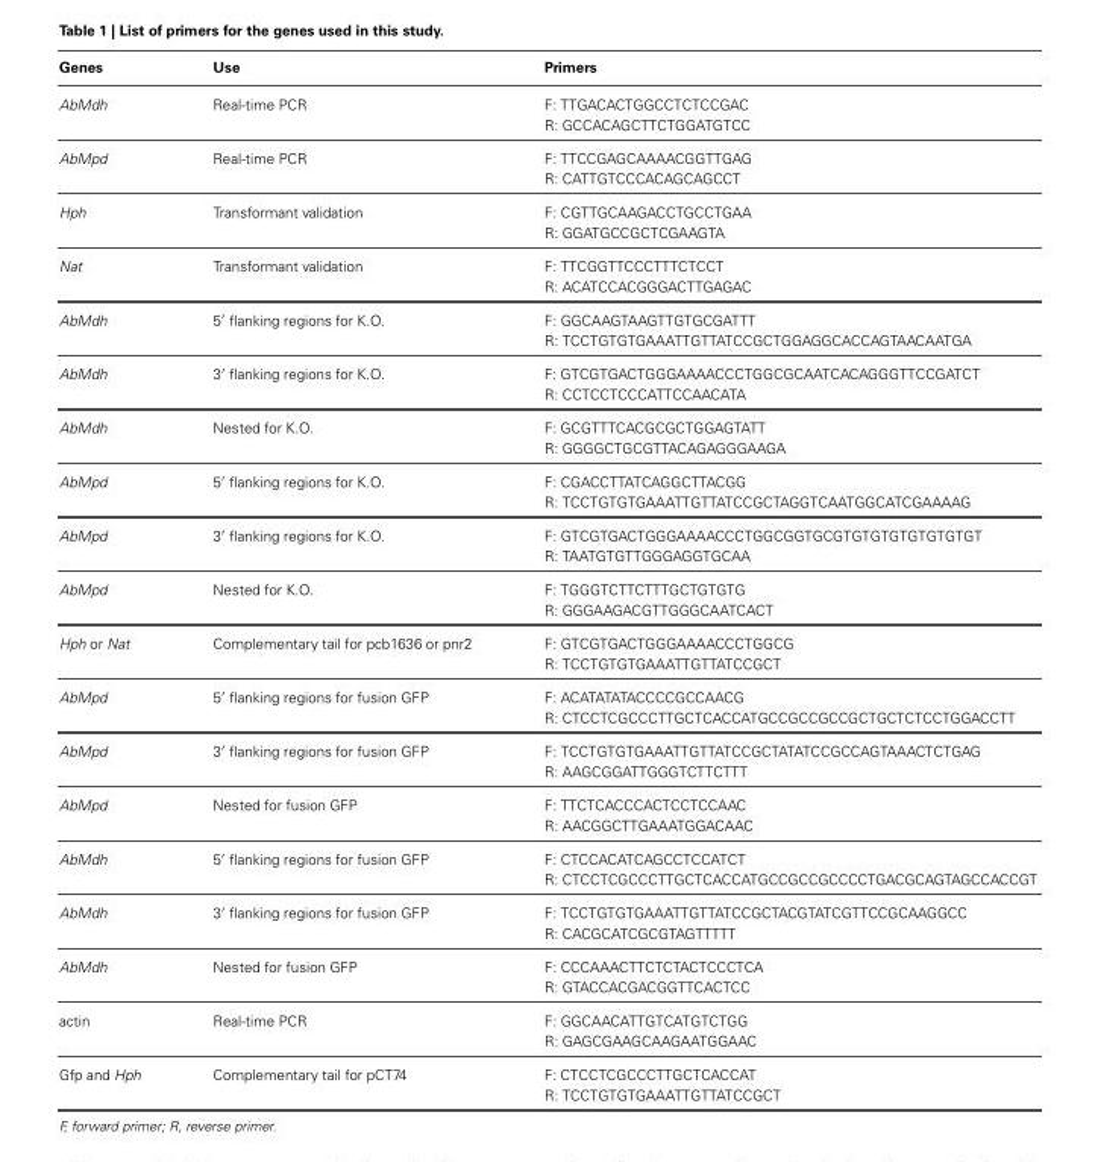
<table><thead><tr><td>Genes</td><td>Use</td><td>Primers</td></tr></thead><tbody><tr><td rowspan="2">AbMdh</td><td>Real-time PCR</td><td>F: TTGACACTGGCCTCTCCGAC</td></tr><tr><td></td><td>R: GCCACAGCTTCTGGATGTCC</td></tr><tr><td rowspan="2">AbMpd</td><td>Real-time PCR</td><td>F: TTCCGAGCAAAACGGTTGAG</td></tr><tr><td></td><td>R: CATTGTCCCACAGCAGCCT</td></tr><tr><td rowspan="2">Hph</td><td>Transformant validation</td><td>F: CGTTGCAAGACCTGCCTGAA</td></tr><tr><td></td><td>R: GGATGCCGCTCGAAGTA</td></tr><tr><td rowspan="2">Nat</td><td>Transformant validation</td><td>F: TTCGGTTCCCTTTCTCCT</td></tr><tr><td></td><td>R: ACATCCACGGGACTTGAGAC</td></tr><tr><td rowspan="2">AbMdh</td><td>5′ flanking regions for K.O.</td><td>F: GGCAAGTAAGTTGTGCGATTT</td></tr><tr><td></td><td>R: TCCTGTGTGAAATTGTTATCCGCTGGAGGCACCAGTAACAATGA</td></tr><tr><td rowspan="2">AbMdh</td><td>3′ flanking regions for K.O.</td><td>F: GTCGTGACTGGGAAAACCCTGGCGCAATCACAGGGTTCCGATCT</td></tr><tr><td></td><td>R: CCTCCTCCCATTCCAACATA</td></tr><tr><td rowspan="2">AbMdh</td><td>Nested for K.O.</td><td>F: GCGTTTCACGCGCTGGAGTATT</td></tr><tr><td></td><td>R: GGGGCTGCGTTACAGAGGGAAGA</td></tr><tr><td rowspan="2">AbMpd</td><td>5′ flanking regions for K.O.</td><td>F: CGACCTTATCAGGCTTACGG</td></tr><tr><td></td><td>R: TCCTGTGTGAAATTGTTATCCGCTAGGTCAATGGCATCGAAAAG</td></tr><tr><td rowspan="2">AbMpd</td><td>3′ flanking regions for K.O.</td><td>F: GTCGTGACTGGGAAAACCCTGGCGGTGCGTGTGTGTGTGTGTGT</td></tr><tr><td></td><td>R: TAATGTGTTGGGAGGTGCAA</td></tr><tr><td rowspan="2">AbMpd</td><td>Nested for K.O.</td><td>F: TGGGTCTTCTTTGCTGTGTG</td></tr><tr><td></td><td>R: GGGAAGACGTTGGGCAATCACT</td></tr><tr><td rowspan="2">Hph or Nat</td><td>Complementary tail for pcb1636 or pnr2</td><td>F: GTCGTGACTGGGAAAACCCTGGCG</td></tr><tr><td></td><td>R: TCCTGTGTGAAATTGTTATCCGCT</td></tr><tr><td rowspan="2">AbMpd</td><td>5′ flanking regions for fusion GFP</td><td>F: ACATATATACCCCGCCAACG</td></tr><tr><td></td><td>R: CTCCTCGCCCTTGCTCACCATGCCGCCGCCGCTGCTCTCCTGGACCTT</td></tr><tr><td rowspan="2">AbMpd</td><td>3′ flanking regions for fusion GFP</td><td>F: TCCTGTGTGAAATTGTTATCCGCTATATCCGCCAGTAAACTCTGAG</td></tr><tr><td></td><td>R: AAGCGGATTGGGTCTTCTTT</td></tr><tr><td rowspan="2">AbMpd</td><td>Nested for fusion GFP</td><td>F: TTCTCACCCACTCCTCCAAC</td></tr><tr><td></td><td>R: AACGGCTTGAAATGGACAAC</td></tr><tr><td rowspan="2">AbMdh</td><td>5′ flanking regions for fusion GFP</td><td>F: CTCCACATCAGCCTCCATCT</td></tr><tr><td></td><td>R: CTCCTCGCCCTTGCTCACCATGCCGCCGCCCCTGACGCAGTAGCCACCGT</td></tr><tr><td rowspan="2">AbMdh</td><td>3′ flanking regions for fusion GFP</td><td>F: TCCTGTGTGAAATTGTTATCCGCTACGTATCGTTCCGCAAGGCC</td></tr><tr><td></td><td>R: CACGCATCGCGTAGTTTTT</td></tr><tr><td rowspan="2">AbMdh</td><td>Nested for fusion GFP</td><td>F: CCCAAACTTCTCTACTCCCTCA</td></tr><tr><td></td><td>R: GTACCACGACGGTTCACTCC</td></tr><tr><td rowspan="2">actin</td><td>Real-time PCR</td><td>F: GGCAACATTGTCATGTCTGG</td></tr><tr><td></td><td>R: GAGCGAAGCAAGAATGGAAC</td></tr><tr><td rowspan="2">Gfp and Hph</td><td>Complementary tail for pCT74</td><td>F: CTCCTCGCCCTTGCTCACCAT</td></tr><tr><td></td><td>R: TCCTGTGTGAAATTGTTATCCGCT</td></tr></tbody></table>